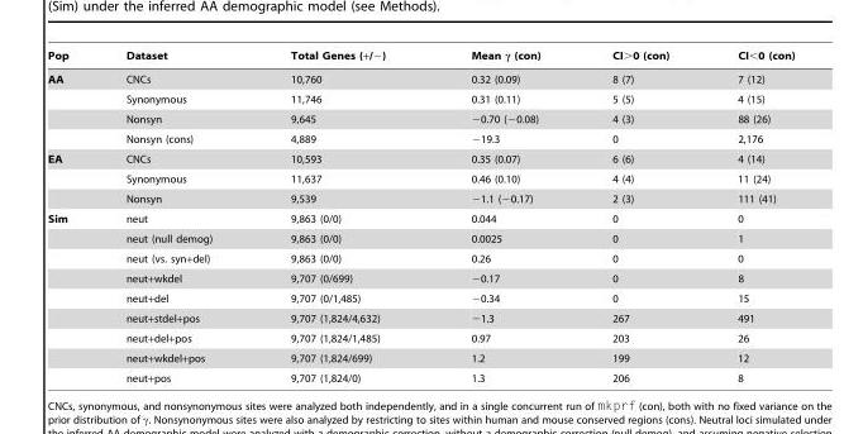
<table><thead><tr><td>Pop</td><td>Dataset</td><td>Total Genes (+/−)</td><td>Mean γ (con)</td><td>CI&gt;0 (con)</td><td>CI&lt;0 (con)</td></tr></thead><tbody><tr><td rowspan="4">AA</td><td>CNCs</td><td>10,760</td><td>0.32 (0.09)</td><td>8 (7)</td><td>7 (12)</td></tr><tr><td>Synonymous</td><td>11,746</td><td>0.31 (0.11)</td><td>5 (5)</td><td>4 (15)</td></tr><tr><td>Nonsyn</td><td>9,645</td><td>−0.70 (−0.08)</td><td>4 (3)</td><td>88 (26)</td></tr><tr><td>Nonsyn (cons)</td><td>4,889</td><td>−19.3</td><td>0</td><td>2,176</td></tr><tr><td rowspan="3">EA</td><td>CNCs</td><td>10,593</td><td>0.35 (0.07)</td><td>6 (6)</td><td>4 (14)</td></tr><tr><td>Synonymous</td><td>11,637</td><td>0.46 (0.10)</td><td>4 (4)</td><td>11 (24)</td></tr><tr><td>Nonsyn</td><td>9,539</td><td>−1.1 (−0.17)</td><td>2 (3)</td><td>111 (41)</td></tr><tr><td rowspan="9">Sim</td><td>neut</td><td>9,863 (0/0)</td><td>0.044</td><td>0</td><td>0</td></tr><tr><td>neut (null demog)</td><td>9,863 (0/0)</td><td>0.0025</td><td>0</td><td>1</td></tr><tr><td>neut (vs. syn+del)</td><td>9,863 (0/0)</td><td>0.26</td><td>0</td><td>0</td></tr><tr><td>neut+wkdel</td><td>9,707 (0/699)</td><td>−0.17</td><td>0</td><td>8</td></tr><tr><td>neut+del</td><td>9,707 (0/1,485)</td><td>−0.34</td><td>0</td><td>15</td></tr><tr><td>neut+stdel+pos</td><td>9,707 (1,824/4,632)</td><td>−1.3</td><td>267</td><td>491</td></tr><tr><td>neut+del+pos</td><td>9,707 (1,824/1,485)</td><td>0.97</td><td>203</td><td>26</td></tr><tr><td>neut+wkdel+pos</td><td>9,707 (1,824/699)</td><td>1.2</td><td>199</td><td>12</td></tr><tr><td>neut+pos</td><td>9,707 (1,824/0)</td><td>1.3</td><td>206</td><td>8</td></tr></tbody></table>